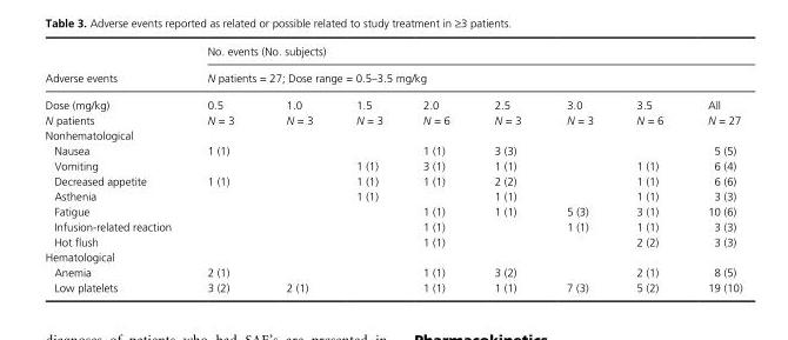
<table><thead><tr><td rowspan="3">Adverse events Dose (mg/kg)</td><td rowspan="2" colspan="8">No. events (No. subjects) N patients = 27; Dose range = 0.5–3.5 mg/kg</td></tr><tr></tr><tr><td>0.5</td><td>1.0</td><td>1.5</td><td>2.0</td><td>2.5</td><td>3.0</td><td>3.5</td><td>All</td></tr></thead><tbody><tr><td>N patients</td><td>N = 3</td><td>N = 3</td><td>N = 3</td><td>N = 6</td><td>N = 3</td><td>N = 3</td><td>N = 6</td><td>N = 27</td></tr><tr><td colspan="9">Nonhematological</td></tr><tr><td>Nausea</td><td>1 (1)</td><td></td><td></td><td>1 (1)</td><td>3 (3)</td><td></td><td></td><td>5 (5)</td></tr><tr><td>Vomiting</td><td></td><td></td><td>1 (1)</td><td>3 (1)</td><td>1 (1)</td><td></td><td>1 (1)</td><td>6 (4)</td></tr><tr><td>Decreased appetite</td><td>1 (1)</td><td></td><td>1 (1)</td><td>1 (1)</td><td>2 (2)</td><td></td><td>1 (1)</td><td>6 (6)</td></tr><tr><td>Asthenia</td><td></td><td></td><td>1 (1)</td><td></td><td>1 (1)</td><td></td><td>1 (1)</td><td>3 (3)</td></tr><tr><td>Fatigue</td><td></td><td></td><td></td><td>1 (1)</td><td>1 (1)</td><td>5 (3)</td><td>3 (1)</td><td>10 (6)</td></tr><tr><td>Infusion- related reaction</td><td></td><td></td><td></td><td>1 (1)</td><td></td><td>1 (1)</td><td>1 (1)</td><td>3 (3)</td></tr><tr><td>Hot flush</td><td></td><td></td><td></td><td>1 (1)</td><td></td><td></td><td>2 (2)</td><td>3 (3)</td></tr><tr><td colspan="9">Hematological</td></tr><tr><td>Anemia</td><td>2 (1)</td><td></td><td></td><td>1 (1)</td><td>3 (2)</td><td></td><td>2 (1)</td><td>8 (5)</td></tr><tr><td>Low platelets</td><td>3 (2)</td><td>2 (1)</td><td></td><td>1 (1)</td><td>1 (1)</td><td>7 (3)</td><td>5 (2)</td><td>19 (10)</td></tr></tbody></table>